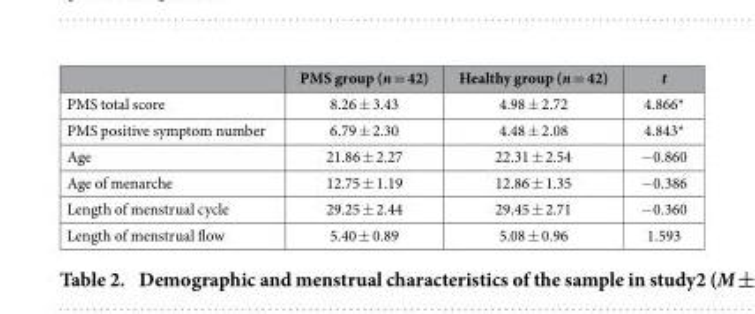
<table><thead><tr><td></td><td>PMS group (n = 42)</td><td>Healthy group (n = 42)</td><td>t</td></tr></thead><tbody><tr><td>PMS total score</td><td>8.26 ± 3.43</td><td>4.98 ± 2.72</td><td>4.866*</td></tr><tr><td>PMS positive symptom number</td><td>6.79 ± 2.30</td><td>4.48 ± 2.08</td><td>4.843*</td></tr><tr><td>Age</td><td>21.86 ± 2.27</td><td>22.31 ± 2.54</td><td>− 0.860</td></tr><tr><td>Age of menarche</td><td>12.75 ± 1.19</td><td>12.86 ± 1.35</td><td>− 0.386</td></tr><tr><td>Length of menstrual cycle</td><td>29.25 ± 2.44</td><td>29.45 ± 2.71</td><td>− 0.360</td></tr><tr><td>Length of menstrual flow</td><td>5.40 ± 0.89</td><td>5.08 ± 0.96</td><td>1.593</td></tr></tbody></table>